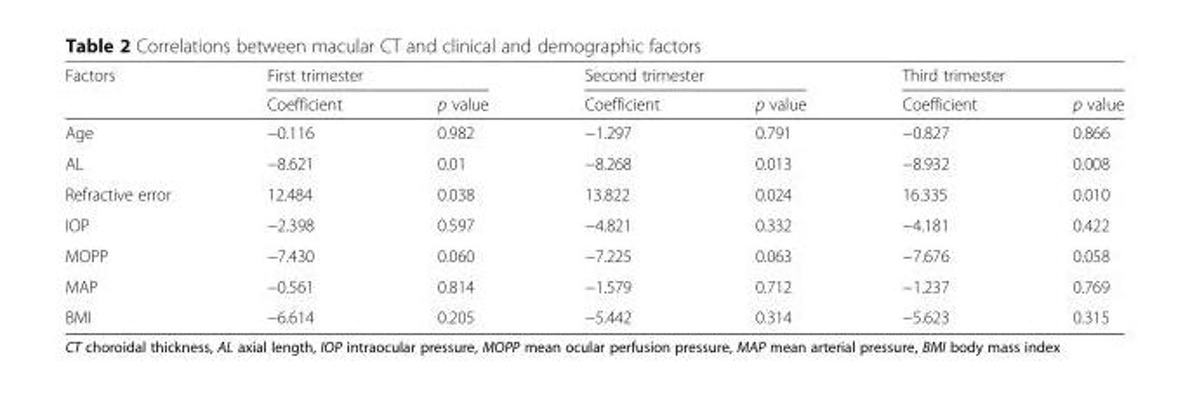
<table><thead><tr><td rowspan="2">Factors</td><td colspan="2">First trimester</td><td colspan="2">Second trimester</td><td colspan="2">Third trimester</td></tr><tr><td>Coefficient</td><td>p value</td><td>Coefficient</td><td>p value</td><td>Coefficient</td><td>p value</td></tr></thead><tbody><tr><td>Age</td><td>−0.116</td><td>0.982</td><td>−1.297</td><td>0.791</td><td>−0.827</td><td>0.866</td></tr><tr><td>AL</td><td>−8.621</td><td>0.01</td><td>−8.268</td><td>0.013</td><td>−8.932</td><td>0.008</td></tr><tr><td>Refractive error</td><td>12.484</td><td>0.038</td><td>13.822</td><td>0.024</td><td>16.335</td><td>0.010</td></tr><tr><td>IOP</td><td>−2.398</td><td>0.597</td><td>−4.821</td><td>0.332</td><td>−4.181</td><td>0.422</td></tr><tr><td>MOPP</td><td>−7.430</td><td>0.060</td><td>−7.225</td><td>0.063</td><td>−7.676</td><td>0.058</td></tr><tr><td>MAP</td><td>−0.561</td><td>0.814</td><td>−1.579</td><td>0.712</td><td>−1.237</td><td>0.769</td></tr><tr><td>BMI</td><td>−6.614</td><td>0.205</td><td>−5.442</td><td>0.314</td><td>−5.623</td><td>0.315</td></tr></tbody></table>